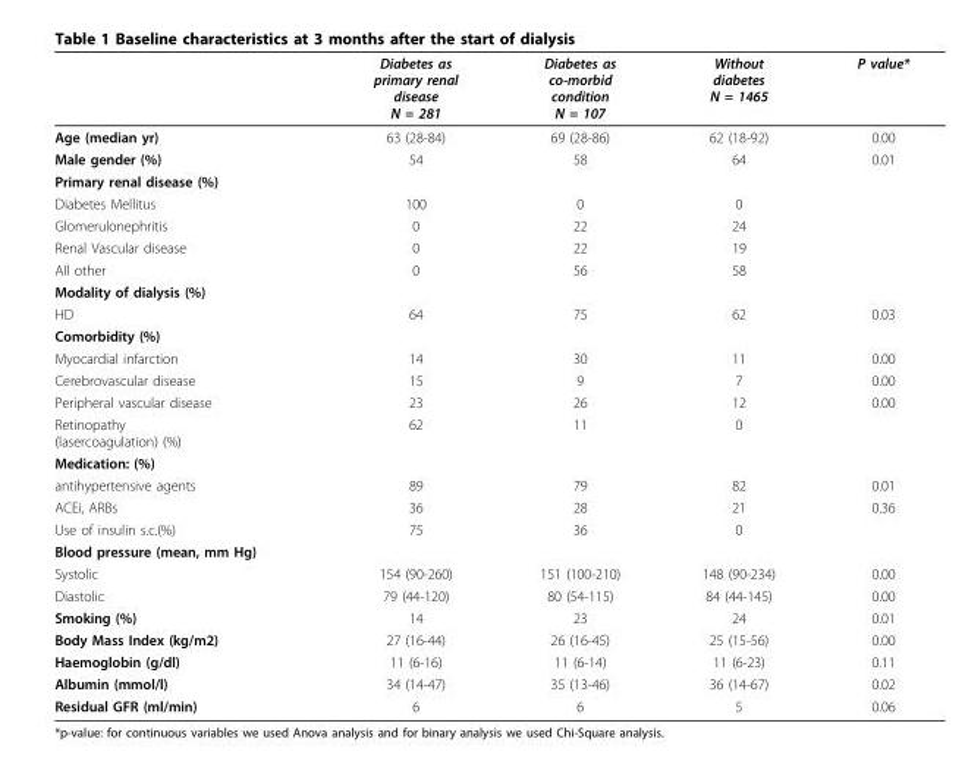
<table><thead><tr><td></td><td>Diabetes as primary renal disease N = 281</td><td>Diabetes as co-morbid condition N = 107</td><td>Without diabetes N = 1465</td><td>P value*</td></tr></thead><tbody><tr><td>Age (median yr)</td><td>63 (28-84)</td><td>69 (28-86)</td><td>62 (18-92)</td><td>0.00</td></tr><tr><td>Male gender (%)</td><td>54</td><td>58</td><td>64</td><td>0.01</td></tr><tr><td colspan="5">Primary renal disease (%)</td></tr><tr><td>Diabetes Mellitus</td><td>100</td><td>0</td><td>0</td><td></td></tr><tr><td>Glomerulonephritis</td><td>0</td><td>22</td><td>24</td><td></td></tr><tr><td>Renal Vascular disease</td><td>0</td><td>22</td><td>19</td><td></td></tr><tr><td>All other</td><td>0</td><td>56</td><td>58</td><td></td></tr><tr><td colspan="5">Modality of dialysis (%)</td></tr><tr><td>HD</td><td>64</td><td>75</td><td>62</td><td>0.03</td></tr><tr><td colspan="5">Comorbidity (%)</td></tr><tr><td>Myocardial infarction</td><td>14</td><td>30</td><td>11</td><td>0.00</td></tr><tr><td>Cerebrovascular disease</td><td>15</td><td>9</td><td>7</td><td>0.00</td></tr><tr><td>Peripheral vascular disease</td><td>23</td><td>26</td><td>12</td><td>0.00</td></tr><tr><td>Retinopathy (lasercoagulation) (%)</td><td>62</td><td>11</td><td>0</td><td></td></tr><tr><td colspan="5">Medication: (%)</td></tr><tr><td>antihypertensive agents</td><td>89</td><td>79</td><td>82</td><td>0.01</td></tr><tr><td>ACEi, ARBs</td><td>36</td><td>28</td><td>21</td><td>0.36</td></tr><tr><td>Use of insulin s.c.(%)</td><td>75</td><td>36</td><td>0</td><td></td></tr><tr><td colspan="5">Blood pressure (mean, mm Hg)</td></tr><tr><td>Systolic</td><td>154 (90-260)</td><td>151 (100-210)</td><td>148 (90-234)</td><td>0.00</td></tr><tr><td>Diastolic</td><td>79 (44-120)</td><td>80 (54-115)</td><td>84 (44-145)</td><td>0.00</td></tr><tr><td>Smoking (%)</td><td>14</td><td>23</td><td>24</td><td>0.01</td></tr><tr><td>Body Mass Index (kg/m2)</td><td>27 (16-44)</td><td>26 (16-45)</td><td>25 (15-56)</td><td>0.00</td></tr><tr><td>Haemoglobin (g/dl)</td><td>11 (6-16)</td><td>11 (6-14)</td><td>11 (6-23)</td><td>0.11</td></tr><tr><td>Albumin (mmol/l)</td><td>34 (14-47)</td><td>35 (13-46)</td><td>36 (14-67)</td><td>0.02</td></tr><tr><td>Residual GFR (ml/min)</td><td>6</td><td>6</td><td>5</td><td>0.06</td></tr></tbody></table>